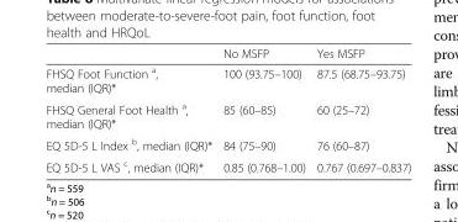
<table><thead><tr><td></td><td>No MSFP</td><td>Yes MSFP</td></tr></thead><tbody><tr><td>FHSQ Foot Function <sup>a</sup>, median (IQR)*</td><td>100 (93.75–100)</td><td>87.5 (68.75–93.75)</td></tr><tr><td>FHSQ General Foot Health <sup>a</sup>, median (IQR)*</td><td>85 (60–85)</td><td>60 (25–72)</td></tr><tr><td>EQ 5D-5 L Index <sup>b</sup>, median (IQR)*</td><td>84 (75–90)</td><td>76 (60–87)</td></tr><tr><td>EQ 5D-5 L VAS <sup>c</sup>, median (IQR)*</td><td>0.85 (0.768–1.00)</td><td>0.767 (0.697–0.837)</td></tr></tbody></table>